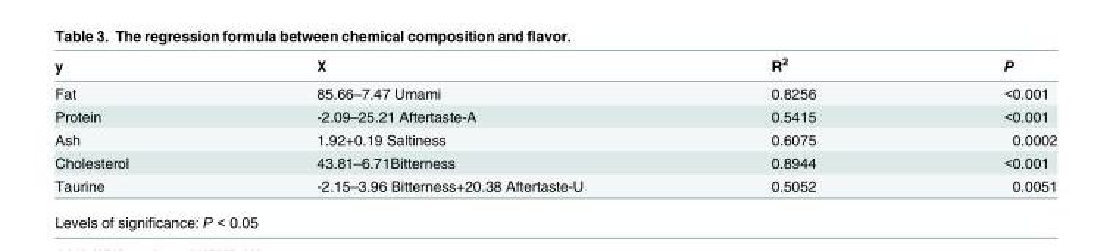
<table><thead><tr><td>y</td><td>X</td><td>R<sup>2</sup></td><td>P</td></tr></thead><tbody><tr><td>Fat</td><td>85.66–7.47 Umami</td><td>0.8256</td><td>&lt;0.001</td></tr><tr><td>Protein</td><td>-2.09–25.21 Aftertaste-A</td><td>0.5415</td><td>&lt;0.001</td></tr><tr><td>Ash</td><td>1.92+0.19 Saltiness</td><td>0.6075</td><td>0.0002</td></tr><tr><td>Cholesterol</td><td>43.81–6.71Bitterness</td><td>0.8944</td><td>&lt;0.001</td></tr><tr><td>Taurine</td><td>-2.15–3.96 Bitterness+20.38 Aftertaste-U</td><td>0.5052</td><td>0.0051</td></tr></tbody></table>